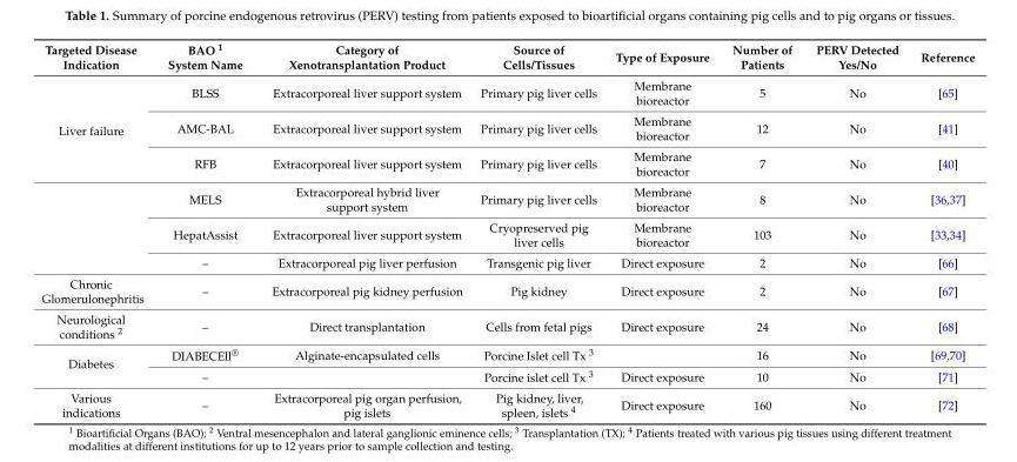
<table><thead><tr><td>Targeted Disease Indication</td><td>BAO <sup>1</sup> System Name</td><td>Category of Xenotransplantation Product</td><td>Source of Cells/Tissues</td><td>Type of Exposure</td><td>Number of Patients</td><td>PERV Detected Yes/No</td><td>Reference</td></tr></thead><tbody><tr><td rowspan="6">Liver failure</td><td>BLSS</td><td>Extracorporeal liver support system</td><td>Primary pig liver cells</td><td>Membrane bioreactor</td><td>5</td><td>No</td><td>[65]</td></tr><tr><td>AMC-BAL</td><td>Extracorporeal liver support system</td><td>Primary pig liver cells</td><td>Membrane bioreactor</td><td>12</td><td>No</td><td>[41]</td></tr><tr><td>RFB</td><td>Extracorporeal liver support system</td><td>Primary pig liver cells</td><td>Membrane bioreactor</td><td>7</td><td>No</td><td>[40]</td></tr><tr><td>MELS</td><td>Extracorporeal hybrid liver support system</td><td>Primary pig liver cells</td><td>Membrane bioreactor</td><td>8</td><td>No</td><td>[36,37]</td></tr><tr><td>HepatAssist</td><td>Extracorporeal liver support system</td><td>Cryopreserved pig liver cells</td><td>Membrane bioreactor</td><td>103</td><td>No</td><td>[33,34]</td></tr><tr><td>–</td><td>Extracorporeal pig liver perfusion</td><td>Transgenic pig liver</td><td>Direct exposure</td><td>2</td><td>No</td><td>[66]</td></tr><tr><td>Chronic Glomerulonephritis</td><td>–</td><td>Extracorporeal pig kidney perfusion</td><td>Pig kidney</td><td>Direct exposure</td><td>2</td><td>No</td><td>[67]</td></tr><tr><td>Neurological conditions <sup>2</sup></td><td>–</td><td>Direct transplantation</td><td>Cells from fetal pigs</td><td>Direct exposure</td><td>24</td><td>No</td><td>[68]</td></tr><tr><td rowspan="2">Diabetes</td><td>DIABECEll<sup>®</sup></td><td>Alginate-encapsulated cells</td><td>Porcine Islet cell Tx <sup>3</sup></td><td></td><td>16</td><td>No</td><td>[69,70]</td></tr><tr><td>–</td><td></td><td>Porcine islet cell Tx <sup>3</sup></td><td>Direct exposure</td><td>10</td><td>No</td><td>[71]</td></tr><tr><td>Various indications</td><td>–</td><td>Extracorporeal pig organ perfusion, pig islets</td><td>Pig kidney, liver, spleen, islets <sup>4</sup></td><td>Direct exposure</td><td>160</td><td>No</td><td>[72]</td></tr></tbody></table>